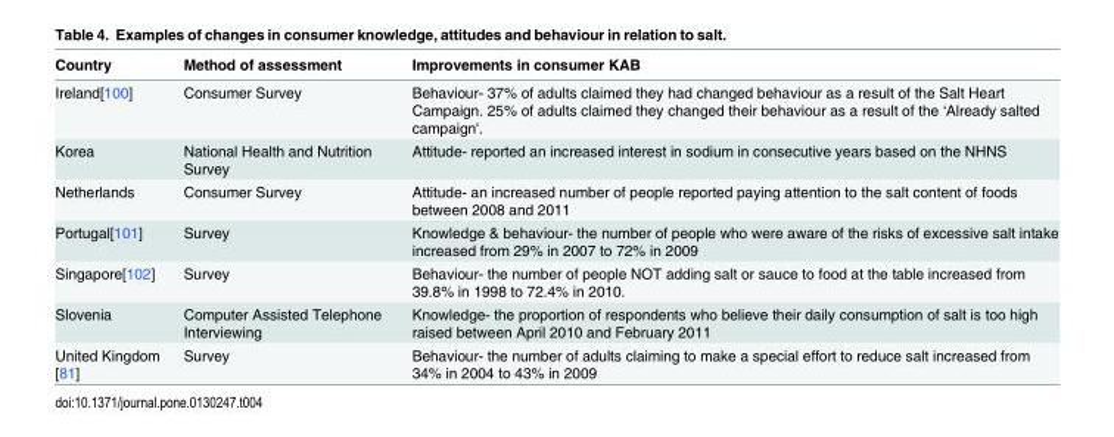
<table><thead><tr><td>Country</td><td>Method of assessment</td><td>Improvements in consumer KAB</td></tr></thead><tbody><tr><td>Ireland[100]</td><td>Consumer Survey</td><td>Behaviour- 37% of adults claimed they had changed behaviour as a result of the Salt Heart Campaign. 25% of adults claimed they changed their behaviour as a result of the ‘Already salted campaign&#x27;.</td></tr><tr><td>Korea</td><td>National Health and Nutrition Survey</td><td>Attitude- reported an increased interest in sodium in consecutive years based on the NHNS</td></tr><tr><td>Netherlands</td><td>Consumer Survey</td><td>Attitude- an increased number of people reported paying attention to the salt content of foods between 2008 and 2011</td></tr><tr><td>Portugal[101]</td><td>Survey</td><td>Knowledge &amp; behaviour- the number of people who were aware of the risks of excessive salt intake increased from 29% in 2007 to 72% in 2009</td></tr><tr><td>Singapore[102]</td><td>Survey</td><td>Behaviour- the number of people NOT adding salt or sauce to food at the table increased from 39.8% in 1998 to 72.4% in 2010.</td></tr><tr><td>Slovenia</td><td>Computer Assisted Telephone Interviewing</td><td>Knowledge- the proportion of respondents who believe their daily consumption of salt is too high raised between April 2010 and February 2011</td></tr><tr><td>United Kingdom [81]</td><td>Survey</td><td>Behaviour- the number of adults claiming to make a special effort to reduce salt increased from 34% in 2004 to 43% in 2009</td></tr></tbody></table>